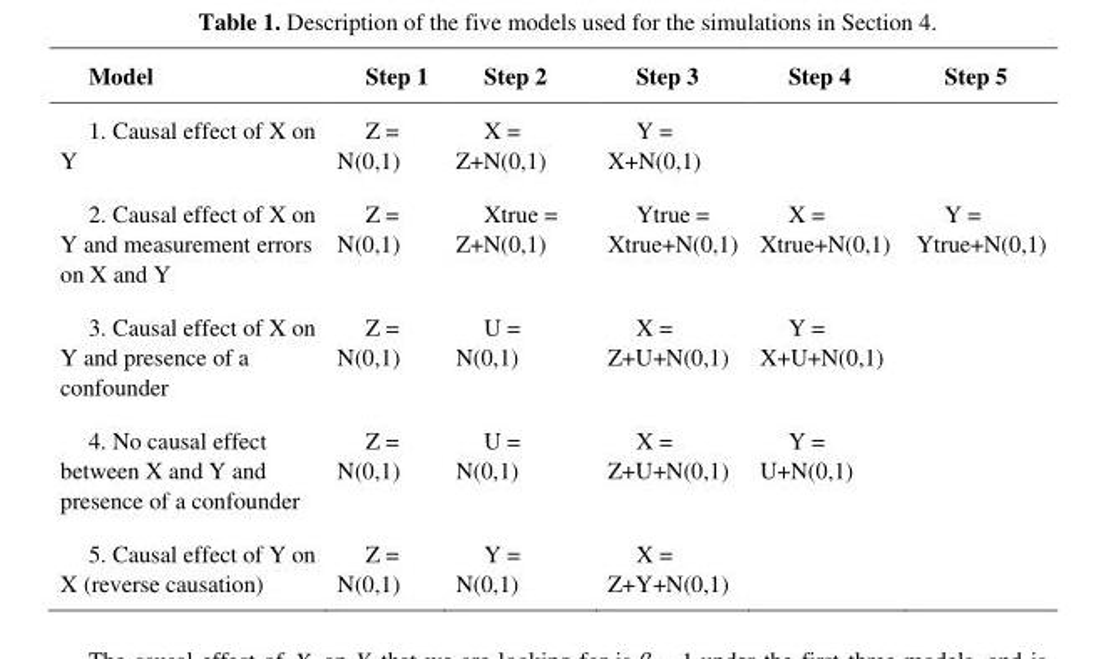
<table><thead><tr><td>Model</td><td>Step 1</td><td>Step 2</td><td>Step 3</td><td>Step 4</td><td>Step 5</td></tr></thead><tbody><tr><td>1. Causal effect of X on Y</td><td>Z = N(0,1)</td><td>X = Z+N(0,1)</td><td>Y = X+N(0,1)</td><td></td><td></td></tr><tr><td>2. Causal effect of X on Y and measurement errors on X and Y</td><td>Z = N(0,1)</td><td>Xtrue = Z+N(0,1)</td><td>Ytrue = Xtrue+N(0,1)</td><td>X = Xtrue+N(0,1)</td><td>Y = Ytrue+N(0,1)</td></tr><tr><td>3. Causal effect of X on Y and presence of a confounder</td><td>Z = N(0,1)</td><td>U = N(0,1)</td><td>X = Z+U+N(0,1)</td><td>Y = X+U+N(0,1)</td><td></td></tr><tr><td>4. No causal effect between X and Y and presence of a confounder</td><td>Z = N(0,1)</td><td>U = N(0,1)</td><td>X = Z+U+N(0,1)</td><td>Y = U+N(0,1)</td><td></td></tr><tr><td>5. Causal effect of Y on X (reverse causation)</td><td>Z = N(0,1)</td><td>Y = N(0,1)</td><td>X = Z+Y+N(0,1)</td><td></td><td></td></tr></tbody></table>